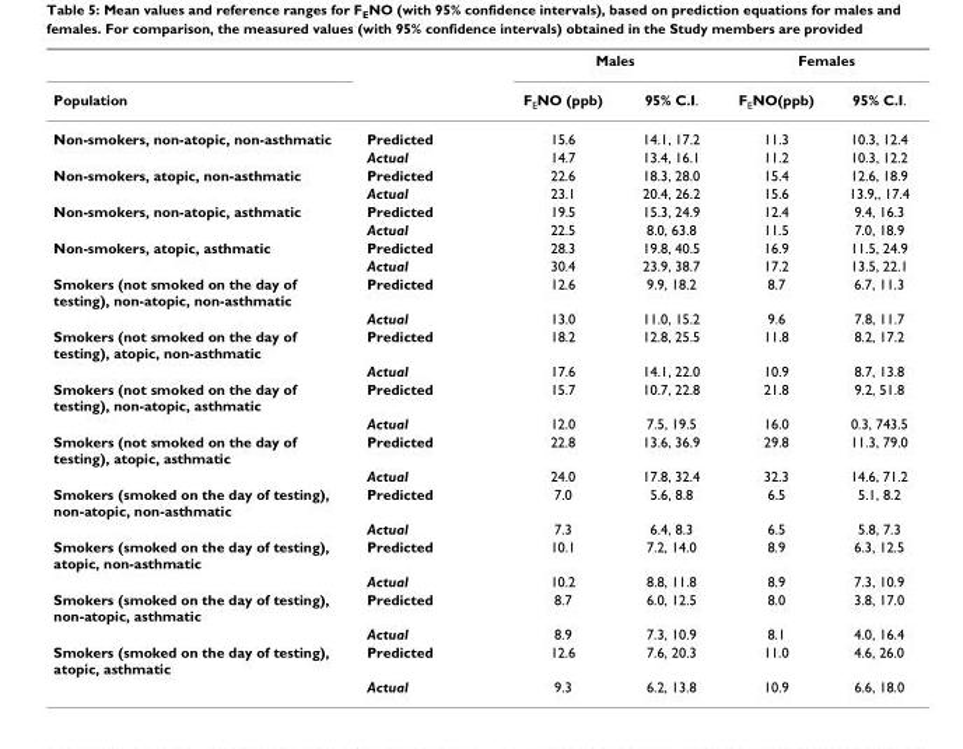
<table><thead><tr><td rowspan="2">Population</td><td rowspan="2"></td><td colspan="2">Males</td><td colspan="2">Females</td></tr><tr><td>F<sub>E</sub>NO (ppb)</td><td>95% C.I.</td><td>F<sub>E</sub>NO(ppb)</td><td>95% C.I.</td></tr></thead><tbody><tr><td rowspan="2">Non-smokers, non-atopic, non-asthmatic</td><td>Predicted</td><td>15.6</td><td>14.1, 17.2</td><td>11.3</td><td>10.3, 12.4</td></tr><tr><td>Actual</td><td>14.7</td><td>13.4, 16.1</td><td>11.2</td><td>10.3, 12.2</td></tr><tr><td rowspan="2">Non-smokers, atopic, non-asthmatic</td><td>Predicted</td><td>22.6</td><td>18.3, 28.0</td><td>15.4</td><td>12.6, 18.9</td></tr><tr><td>Actual</td><td>23.1</td><td>20.4, 26.2</td><td>15.6</td><td>13.9,, 17.4</td></tr><tr><td rowspan="2">Non-smokers, non-atopic, asthmatic</td><td>Predicted</td><td>19.5</td><td>15.3, 24.9</td><td>12.4</td><td>9.4, 16.3</td></tr><tr><td>Actual</td><td>22.5</td><td>8.0, 63.8</td><td>11.5</td><td>7.0, 18.9</td></tr><tr><td rowspan="2">Non-smokers, atopic, asthmatic</td><td>Predicted</td><td>28.3</td><td>19.8, 40.5</td><td>16.9</td><td>11.5, 24.9</td></tr><tr><td>Actual</td><td>30.4</td><td>23.9, 38.7</td><td>17.2</td><td>13.5, 22.1</td></tr><tr><td rowspan="2">Smokers (not smoked on the day of testing), non-atopic, non-asthmatic</td><td>Predicted</td><td>12.6</td><td>9.9, 18.2</td><td>8.7</td><td>6.7, 11.3</td></tr><tr><td>Actual</td><td>13.0</td><td>11.0, 15.2</td><td>9.6</td><td>7.8, 11.7</td></tr><tr><td rowspan="2">Smokers (not smoked on the day of testing), atopic, non-asthmatic</td><td>Predicted</td><td>18.2</td><td>12.8, 25.5</td><td>11.8</td><td>8.2, 17.2</td></tr><tr><td>Actual</td><td>17.6</td><td>14.1, 22.0</td><td>10.9</td><td>8.7, 13.8</td></tr><tr><td rowspan="2">Smokers (not smoked on the day of testing), non-atopic, asthmatic</td><td>Predicted</td><td>15.7</td><td>10.7, 22.8</td><td>21.8</td><td>9.2, 51.8</td></tr><tr><td>Actual</td><td>12.0</td><td>7.5, 19.5</td><td>16.0</td><td>0.3, 743.5</td></tr><tr><td rowspan="2">Smokers (not smoked on the day of testing), atopic, asthmatic</td><td>Predicted</td><td>22.8</td><td>13.6, 36.9</td><td>29.8</td><td>11.3, 79.0</td></tr><tr><td>Actual</td><td>24.0</td><td>17.8, 32.4</td><td>32.3</td><td>14.6, 71.2</td></tr><tr><td rowspan="2">Smokers (smoked on the day of testing), non-atopic, non-asthmatic</td><td>Predicted</td><td>7.0</td><td>5.6, 8.8</td><td>6.5</td><td>5.1, 8.2</td></tr><tr><td>Actual</td><td>7.3</td><td>6.4, 8.3</td><td>6.5</td><td>5.8, 7.3</td></tr><tr><td rowspan="2">Smokers (smoked on the day of testing), atopic, non-asthmatic</td><td>Predicted</td><td>10.1</td><td>7.2, 14.0</td><td>8.9</td><td>6.3, 12.5</td></tr><tr><td>Actual</td><td>10.2</td><td>8.8, 11.8</td><td>8.9</td><td>7.3, 10.9</td></tr><tr><td rowspan="2">Smokers (smoked on the day of testing), non-atopic, asthmatic</td><td>Predicted</td><td>8.7</td><td>6.0, 12.5</td><td>8.0</td><td>3.8, 17.0</td></tr><tr><td>Actual</td><td>8.9</td><td>7.3, 10.9</td><td>8.1</td><td>4.0, 16.4</td></tr><tr><td rowspan="2">Smokers (smoked on the day of testing), atopic, asthmatic</td><td>Predicted</td><td>12.6</td><td>7.6, 20.3</td><td>11.0</td><td>4.6, 26.0</td></tr><tr><td>Actual</td><td>9.3</td><td>6.2, 13.8</td><td>10.9</td><td>6.6, 18.0</td></tr></tbody></table>